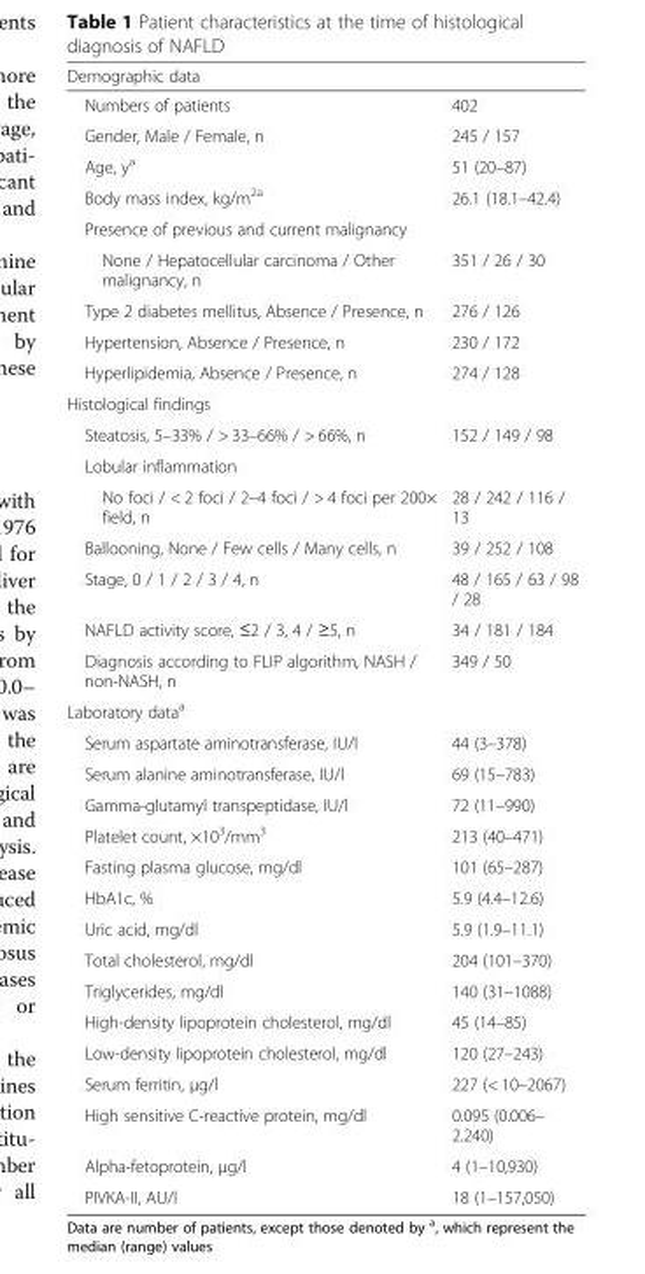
<table><thead><tr><td colspan="2">Demographic data</td></tr><tr><td>Numbers of patients</td><td>402</td></tr></thead><tbody><tr><td>Gender, Male / Female, n</td><td>245 / 157</td></tr><tr><td>Age, y<sup>a</sup></td><td>51 (20–87)</td></tr><tr><td>Body mass index, kg/m<sup>2a</sup></td><td>26.1 (18.1–42.4)</td></tr><tr><td colspan="2">Presence of previous and current malignancy</td></tr><tr><td>None / Hepatocellular carcinoma / Other malignancy, n</td><td>351 / 26 / 30</td></tr><tr><td>Type 2 diabetes mellitus, Absence / Presence, n</td><td>276 / 126</td></tr><tr><td>Hypertension, Absence / Presence, n</td><td>230 / 172</td></tr><tr><td>Hyperlipidemia, Absence / Presence, n</td><td>274 / 128</td></tr><tr><td colspan="2">Histological findings</td></tr><tr><td>Steatosis, 5–33% / &gt; 33–66% / &gt; 66%, n</td><td>152 / 149 / 98</td></tr><tr><td colspan="2">Lobular inflammation</td></tr><tr><td>No foci / &lt; 2 foci / 2–4 foci / &gt; 4 foci per 200× field, n</td><td>28 / 242 / 116 / 13</td></tr><tr><td>Ballooning, None / Few cells / Many cells, n</td><td>39 / 252 / 108</td></tr><tr><td>Stage, 0 / 1 / 2 / 3 / 4, n</td><td>48 / 165 / 63 / 98 / 28</td></tr><tr><td>NAFLD activity score, ≤2 / 3, 4 / ≥5, n</td><td>34 / 181 / 184</td></tr><tr><td>Diagnosis according to FLIP algorithm, NASH / non-NASH, n</td><td>349 / 50</td></tr><tr><td colspan="2">Laboratory data<sup>a</sup></td></tr><tr><td>Serum aspartate aminotransferase, IU/l</td><td>44 (3–378)</td></tr><tr><td>Serum alanine aminotransferase, IU/l</td><td>69 (15–783)</td></tr><tr><td>Gamma-glutamyl transpeptidase, IU/l</td><td>72 (11–990)</td></tr><tr><td>Platelet count, ×10<sup>3</sup>/mm<sup>3</sup></td><td>213 (40–471)</td></tr><tr><td>Fasting plasma glucose, mg/dl</td><td>101 (65–287)</td></tr><tr><td>HbA1c, %</td><td>5.9 (4.4–12.6)</td></tr><tr><td>Uric acid, mg/dl</td><td>5.9 (1.9–11.1)</td></tr><tr><td>Total cholesterol, mg/dl</td><td>204 (101–370)</td></tr><tr><td>Triglycerides, mg/dl</td><td>140 (31–1088)</td></tr><tr><td>High-density lipoprotein cholesterol, mg/dl</td><td>45 (14–85)</td></tr><tr><td>Low-density lipoprotein cholesterol, mg/dl</td><td>120 (27–243)</td></tr><tr><td>Serum ferritin, μg/l</td><td>227 (&lt; 10–2067)</td></tr><tr><td>High sensitive C-reactive protein, mg/dl</td><td>0.095 (0.006– 2.240)</td></tr><tr><td>Alpha-fetoprotein, μg/l</td><td>4 (1–10,930)</td></tr><tr><td>PIVKA-II, AU/l</td><td>18 (1–157,050)</td></tr></tbody></table>